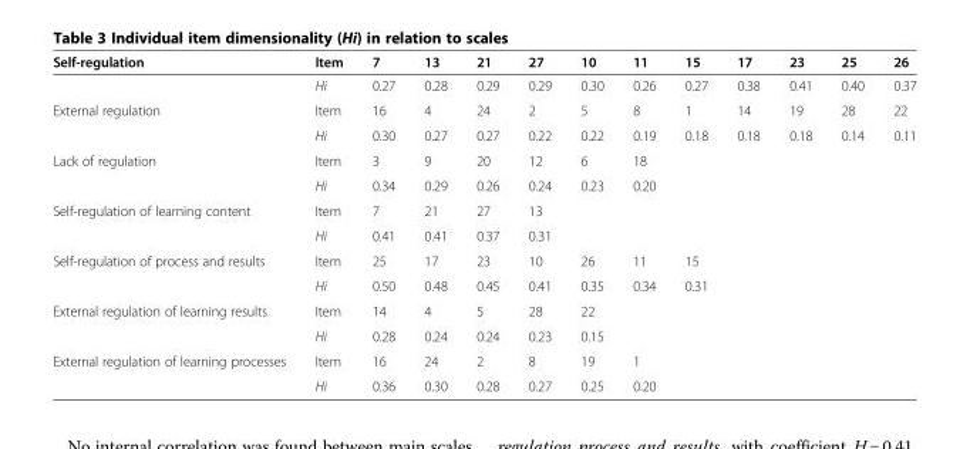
<table><thead><tr><td>Self-regulation</td><td>Item</td><td>7</td><td>13</td><td>21</td><td>27</td><td>10</td><td>11</td><td>15</td><td>17</td><td>23</td><td>25</td><td>26</td></tr></thead><tbody><tr><td></td><td>Hi</td><td>0.27</td><td>0.28</td><td>0.29</td><td>0.29</td><td>0.30</td><td>0.26</td><td>0.27</td><td>0.38</td><td>0.41</td><td>0.40</td><td>0.37</td></tr><tr><td rowspan="2">External regulation</td><td>Item</td><td>16</td><td>4</td><td>24</td><td>2</td><td>5</td><td>8</td><td>1</td><td>14</td><td>19</td><td>28</td><td>22</td></tr><tr><td>Hi</td><td>0.30</td><td>0.27</td><td>0.27</td><td>0.22</td><td>0.22</td><td>0.19</td><td>0.18</td><td>0.18</td><td>0.18</td><td>0.14</td><td>0.11</td></tr><tr><td rowspan="2">Lack of regulation</td><td>Item</td><td>3</td><td>9</td><td>20</td><td>12</td><td>6</td><td>18</td><td></td><td></td><td></td><td></td><td></td></tr><tr><td>Hi</td><td>0.34</td><td>0.29</td><td>0.26</td><td>0.24</td><td>0.23</td><td>0.20</td><td></td><td></td><td></td><td></td><td></td></tr><tr><td rowspan="2">Self-regulation of learning content</td><td>Item</td><td>7</td><td>21</td><td>27</td><td>13</td><td></td><td></td><td></td><td></td><td></td><td></td><td></td></tr><tr><td>Hi</td><td>0.41</td><td>0.41</td><td>0.37</td><td>0.31</td><td></td><td></td><td></td><td></td><td></td><td></td><td></td></tr><tr><td rowspan="2">Self-regulation of process and results</td><td>Item</td><td>25</td><td>17</td><td>23</td><td>10</td><td>26</td><td>11</td><td>15</td><td></td><td></td><td></td><td></td></tr><tr><td>Hi</td><td>0.50</td><td>0.48</td><td>0.45</td><td>0.41</td><td>0.35</td><td>0.34</td><td>0.31</td><td></td><td></td><td></td><td></td></tr><tr><td rowspan="2">External regulation of learning results</td><td>Item</td><td>14</td><td>4</td><td>5</td><td>28</td><td>22</td><td></td><td></td><td></td><td></td><td></td><td></td></tr><tr><td>Hi</td><td>0.28</td><td>0.24</td><td>0.24</td><td>0.23</td><td>0.15</td><td></td><td></td><td></td><td></td><td></td><td></td></tr><tr><td rowspan="2">External regulation of learning processes</td><td>Item</td><td>16</td><td>24</td><td>2</td><td>8</td><td>19</td><td>1</td><td></td><td></td><td></td><td></td><td></td></tr><tr><td>Hi</td><td>0.36</td><td>0.30</td><td>0.28</td><td>0.27</td><td>0.25</td><td>0.20</td><td></td><td></td><td></td><td></td><td></td></tr></tbody></table>